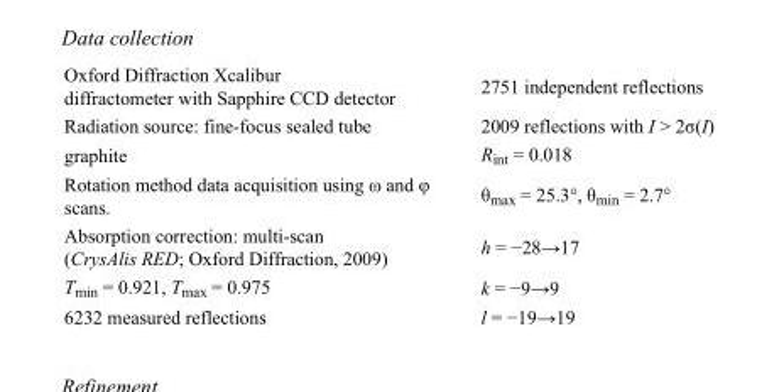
<table><tbody><tr><td>Oxford Diffraction Xcalibur diffractometer with Sapphire CCD detector</td><td>2751 independent reflections</td></tr><tr><td>Radiation source: fine-focus sealed tube</td><td>2009 reflections with I &gt; 2σ(I)</td></tr><tr><td>graphite</td><td>R<sub>int</sub> = 0.018</td></tr><tr><td>Rotation method data acquisition using ω and φ scans.</td><td>θ<sub>max</sub> = 25.3°, θ<sub>min</sub> = 2.7°</td></tr><tr><td>Absorption correction: multi-scan (CrysAlis RED; Oxford Diffraction, 2009)</td><td>h = −28→17</td></tr><tr><td>T<sub>min</sub> = 0.921, T<sub>max</sub> = 0.975</td><td>k = −9→9</td></tr><tr><td>6232 measured reflections</td><td>l = −19→19</td></tr></tbody></table>